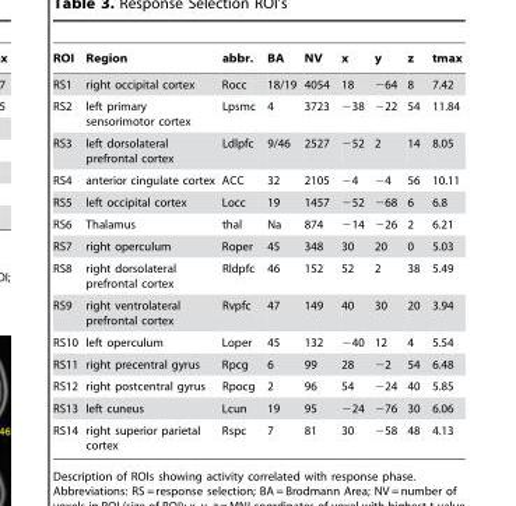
<table><thead><tr><td>ROI</td><td>Region</td><td>abbr.</td><td>BA</td><td>NV</td><td>x</td><td>y</td><td>z</td><td>tmax</td></tr></thead><tbody><tr><td>RS1</td><td>right occipital cortex</td><td>Rocc</td><td>18/19</td><td>4054</td><td>18</td><td>−64</td><td>8</td><td>7.42</td></tr><tr><td>RS2</td><td>left primary sensorimotor cortex</td><td>Lpsmc</td><td>4</td><td>3723</td><td>−38</td><td>−22</td><td>54</td><td>11.84</td></tr><tr><td>RS3</td><td>left dorsolateral prefrontal cortex</td><td>Ldlpfc</td><td>9/46</td><td>2527</td><td>−52</td><td>2</td><td>14</td><td>8.05</td></tr><tr><td>RS4</td><td>anterior cingulate cortex</td><td>ACC</td><td>32</td><td>2105</td><td>−4</td><td>−4</td><td>56</td><td>10.11</td></tr><tr><td>RS5</td><td>left occipital cortex</td><td>Locc</td><td>19</td><td>1457</td><td>−52</td><td>−68</td><td>6</td><td>6.8</td></tr><tr><td>RS6</td><td>Thalamus</td><td>thal</td><td>Na</td><td>874</td><td>−14</td><td>−26</td><td>2</td><td>6.21</td></tr><tr><td>RS7</td><td>right operculum</td><td>Roper</td><td>45</td><td>348</td><td>30</td><td>20</td><td>0</td><td>5.03</td></tr><tr><td>RS8</td><td>right dorsolateral prefrontal cortex</td><td>Rldpfc</td><td>46</td><td>152</td><td>52</td><td>2</td><td>38</td><td>5.49</td></tr><tr><td>RS9</td><td>right ventrolateral prefrontal cortex</td><td>Rvpfc</td><td>47</td><td>149</td><td>40</td><td>30</td><td>20</td><td>3.94</td></tr><tr><td>RS10</td><td>left operculum</td><td>Loper</td><td>45</td><td>132</td><td>−40</td><td>12</td><td>4</td><td>5.54</td></tr><tr><td>RS11</td><td>right precentral gyrus</td><td>Rpcg</td><td>6</td><td>99</td><td>28</td><td>−2</td><td>54</td><td>6.48</td></tr><tr><td>RS12</td><td>right postcentral gyrus</td><td>Rpocg</td><td>2</td><td>96</td><td>54</td><td>−24</td><td>40</td><td>5.85</td></tr><tr><td>RS13</td><td>left cuneus</td><td>Lcun</td><td>19</td><td>95</td><td>−24</td><td>−76</td><td>30</td><td>6.06</td></tr><tr><td>RS14</td><td>right superior parietal cortex</td><td>Rspc</td><td>7</td><td>81</td><td>30</td><td>−58</td><td>48</td><td>4.13</td></tr></tbody></table>